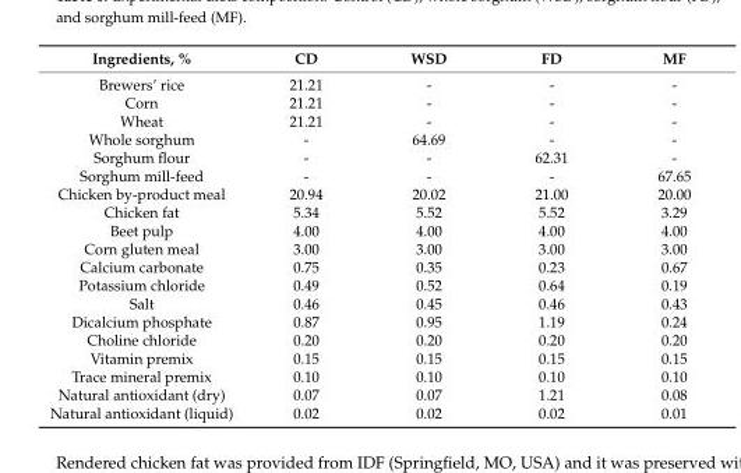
<table><thead><tr><td>Ingredients, %</td><td>CD</td><td>WSD</td><td>FD</td><td>MF</td></tr></thead><tbody><tr><td>Brewers’ rice</td><td>21.21</td><td>-</td><td>-</td><td>-</td></tr><tr><td>Corn</td><td>21.21</td><td>-</td><td>-</td><td>-</td></tr><tr><td>Wheat</td><td>21.21</td><td>-</td><td>-</td><td>-</td></tr><tr><td>Whole sorghum</td><td>-</td><td>64.69</td><td>-</td><td>-</td></tr><tr><td>Sorghum flour</td><td>-</td><td>-</td><td>62.31</td><td>-</td></tr><tr><td>Sorghum mill-feed</td><td>-</td><td>-</td><td>-</td><td>67.65</td></tr><tr><td>Chicken by-product meal</td><td>20.94</td><td>20.02</td><td>21.00</td><td>20.00</td></tr><tr><td>Chicken fat</td><td>5.34</td><td>5.52</td><td>5.52</td><td>3.29</td></tr><tr><td>Beet pulp</td><td>4.00</td><td>4.00</td><td>4.00</td><td>4.00</td></tr><tr><td>Corn gluten meal</td><td>3.00</td><td>3.00</td><td>3.00</td><td>3.00</td></tr><tr><td>Calcium carbonate</td><td>0.75</td><td>0.35</td><td>0.23</td><td>0.67</td></tr><tr><td>Potassium chloride</td><td>0.49</td><td>0.52</td><td>0.64</td><td>0.19</td></tr><tr><td>Salt</td><td>0.46</td><td>0.45</td><td>0.46</td><td>0.43</td></tr><tr><td>Dicalcium phosphate</td><td>0.87</td><td>0.95</td><td>1.19</td><td>0.24</td></tr><tr><td>Choline chloride</td><td>0.20</td><td>0.20</td><td>0.20</td><td>0.20</td></tr><tr><td>Vitamin premix</td><td>0.15</td><td>0.15</td><td>0.15</td><td>0.15</td></tr><tr><td>Trace mineral premix</td><td>0.10</td><td>0.10</td><td>0.10</td><td>0.10</td></tr><tr><td>Natural antioxidant (dry)</td><td>0.07</td><td>0.07</td><td>1.21</td><td>0.08</td></tr><tr><td>Natural antioxidant (liquid)</td><td>0.02</td><td>0.02</td><td>0.02</td><td>0.01</td></tr></tbody></table>